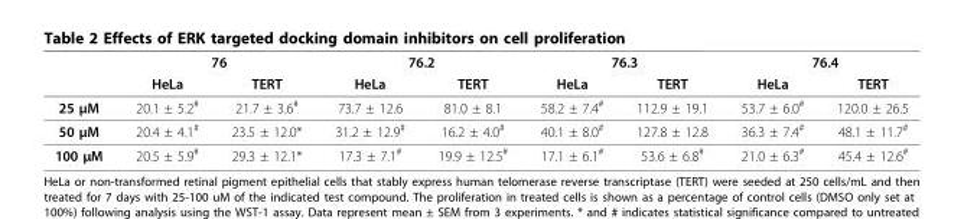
<table><thead><tr><td rowspan="2"></td><td colspan="2">76</td><td colspan="2">76.2</td><td colspan="2">76.3</td><td colspan="2">76.4</td></tr><tr><td>HeLa</td><td>TERT</td><td>HeLa</td><td>TERT</td><td>HeLa</td><td>TERT</td><td>HeLa</td><td>TERT</td></tr></thead><tbody><tr><td>25 μM</td><td>20.1 ± 5.2<sup>#</sup></td><td>21.7 ± 3.6<sup>#</sup></td><td>73.7 ± 12.6</td><td>81.0 ± 8.1</td><td>58.2 ± 7.4<sup>#</sup></td><td>112.9 ± 19.1</td><td>53.7 ± 6.0<sup>#</sup></td><td>120.0 ± 26.5</td></tr><tr><td>50 μM</td><td>20.4 ± 4.1<sup>#</sup></td><td>23.5 ± 12.0*</td><td>31.2 ± 12.9<sup>#</sup></td><td>16.2 ± 4.0<sup>#</sup></td><td>40.1 ± 8.0<sup>#</sup></td><td>127.8 ± 12.8</td><td>36.3 ± 7.4<sup>#</sup></td><td>48.1 ± 11.7<sup>#</sup></td></tr><tr><td>100 μM</td><td>20.5 ± 5.9<sup>#</sup></td><td>29.3 ± 12.1*</td><td>17.3 ± 7.1<sup>#</sup></td><td>19.9 ± 12.5<sup>#</sup></td><td>17.1 ± 6.1<sup>#</sup></td><td>53.6 ± 6.8<sup>#</sup></td><td>21.0 ± 6.3<sup>#</sup></td><td>45.4 ± 12.6<sup>#</sup></td></tr></tbody></table>